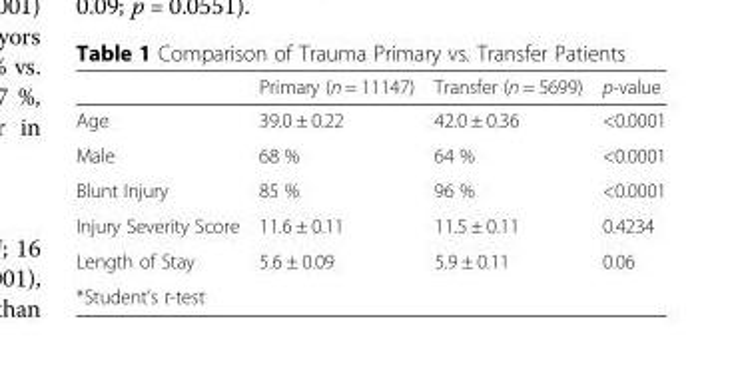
<table><thead><tr><td></td><td>Primary (n = 11147)</td><td>Transfer (n = 5699)</td><td>p-value</td></tr></thead><tbody><tr><td>Age</td><td>39.0 ± 0.22</td><td>42.0 ± 0.36</td><td>&lt;0.0001</td></tr><tr><td>Male</td><td>68 %</td><td>64 %</td><td>&lt;0.0001</td></tr><tr><td>Blunt Injury</td><td>85 %</td><td>96 %</td><td>&lt;0.0001</td></tr><tr><td>Injury Severity Score</td><td>11.6 ± 0.11</td><td>11.5 ± 0.11</td><td>0.4234</td></tr><tr><td>Length of Stay</td><td>5.6 ± 0.09</td><td>5.9 ± 0.11</td><td>0.06</td></tr><tr><td colspan="3">*Student’s t-test</td><td></td></tr></tbody></table>